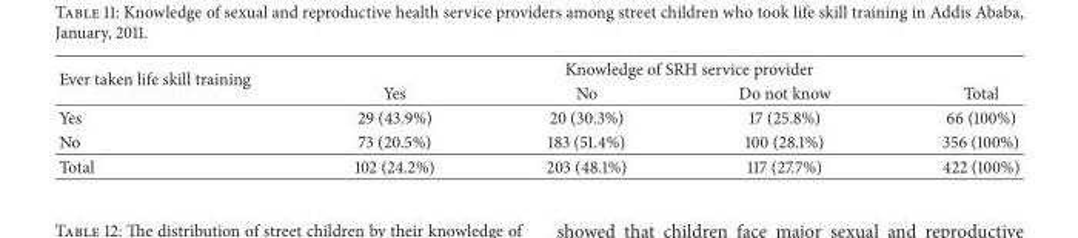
<table><thead><tr><td rowspan="2">Ever taken life skill training</td><td colspan="4">Knowledge of SRH service provider</td></tr><tr><td>Yes</td><td>No</td><td>Do not know</td><td>Total</td></tr></thead><tbody><tr><td>Yes</td><td>29 (43.9%)</td><td>20 (30.3%)</td><td>17 (25.8%)</td><td>66 (100%)</td></tr><tr><td>No</td><td>73 (20.5%)</td><td>183 (51.4%)</td><td>100 (28.1%)</td><td>356 (100%)</td></tr><tr><td>Total</td><td>102 (24.2%)</td><td>203 (48.1%)</td><td>117 (27.7%)</td><td>422 (100%)</td></tr></tbody></table>